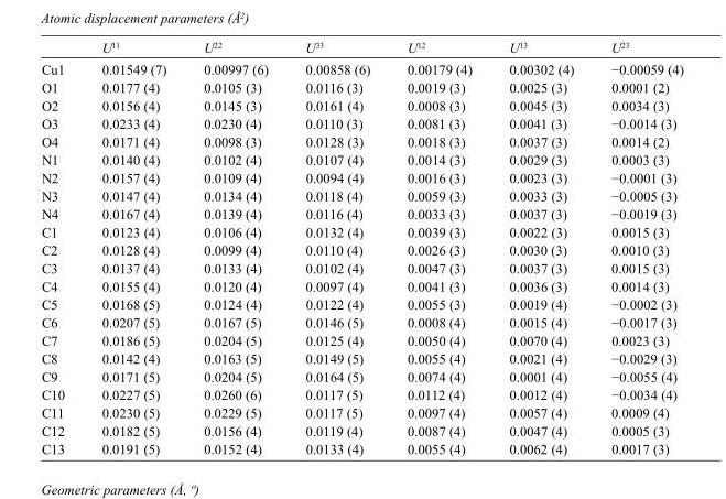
<table><thead><tr><td></td><td>U<sup>11</sup></td><td>U<sup>22</sup></td><td>U<sup>33</sup></td><td>U<sup>12</sup></td><td>U<sup>13</sup></td><td>U<sup>23</sup></td></tr></thead><tbody><tr><td>Cu1</td><td>0.01549 (7)</td><td>0.00997 (6)</td><td>0.00858 (6)</td><td>0.00179 (4)</td><td>0.00302 (4)</td><td>−0.00059 (4)</td></tr><tr><td>O1</td><td>0.0177 (4)</td><td>0.0105 (3)</td><td>0.0116 (3)</td><td>0.0019 (3)</td><td>0.0025 (3)</td><td>0.0001 (2)</td></tr><tr><td>O2</td><td>0.0156 (4)</td><td>0.0145 (3)</td><td>0.0161 (4)</td><td>0.0008 (3)</td><td>0.0045 (3)</td><td>0.0034 (3)</td></tr><tr><td>O3</td><td>0.0233 (4)</td><td>0.0230 (4)</td><td>0.0110 (3)</td><td>0.0081 (3)</td><td>0.0041 (3)</td><td>−0.0014 (3)</td></tr><tr><td>O4</td><td>0.0171 (4)</td><td>0.0098 (3)</td><td>0.0128 (3)</td><td>0.0018 (3)</td><td>0.0037 (3)</td><td>0.0014 (2)</td></tr><tr><td>N1</td><td>0.0140 (4)</td><td>0.0102 (4)</td><td>0.0107 (4)</td><td>0.0014 (3)</td><td>0.0029 (3)</td><td>0.0003 (3)</td></tr><tr><td>N2</td><td>0.0157 (4)</td><td>0.0109 (4)</td><td>0.0094 (4)</td><td>0.0016 (3)</td><td>0.0023 (3)</td><td>−0.0001 (3)</td></tr><tr><td>N3</td><td>0.0147 (4)</td><td>0.0134 (4)</td><td>0.0118 (4)</td><td>0.0059 (3)</td><td>0.0033 (3)</td><td>−0.0005 (3)</td></tr><tr><td>N4</td><td>0.0167 (4)</td><td>0.0139 (4)</td><td>0.0116 (4)</td><td>0.0033 (3)</td><td>0.0037 (3)</td><td>−0.0019 (3)</td></tr><tr><td>C1</td><td>0.0123 (4)</td><td>0.0106 (4)</td><td>0.0132 (4)</td><td>0.0039 (3)</td><td>0.0022 (3)</td><td>0.0015 (3)</td></tr><tr><td>C2</td><td>0.0128 (4)</td><td>0.0099 (4)</td><td>0.0110 (4)</td><td>0.0026 (3)</td><td>0.0030 (3)</td><td>0.0010 (3)</td></tr><tr><td>C3</td><td>0.0137 (4)</td><td>0.0133 (4)</td><td>0.0102 (4)</td><td>0.0047 (3)</td><td>0.0037 (3)</td><td>0.0015 (3)</td></tr><tr><td>C4</td><td>0.0155 (4)</td><td>0.0120 (4)</td><td>0.0097 (4)</td><td>0.0041 (3)</td><td>0.0036 (3)</td><td>0.0014 (3)</td></tr><tr><td>C5</td><td>0.0168 (5)</td><td>0.0124 (4)</td><td>0.0122 (4)</td><td>0.0055 (3)</td><td>0.0019 (4)</td><td>−0.0002 (3)</td></tr><tr><td>C6</td><td>0.0207 (5)</td><td>0.0167 (5)</td><td>0.0146 (5)</td><td>0.0008 (4)</td><td>0.0015 (4)</td><td>−0.0017 (3)</td></tr><tr><td>C7</td><td>0.0186 (5)</td><td>0.0204 (5)</td><td>0.0125 (4)</td><td>0.0050 (4)</td><td>0.0070 (4)</td><td>0.0023 (3)</td></tr><tr><td>C8</td><td>0.0142 (4)</td><td>0.0163 (5)</td><td>0.0149 (5)</td><td>0.0055 (4)</td><td>0.0021 (4)</td><td>−0.0029 (3)</td></tr><tr><td>C9</td><td>0.0171 (5)</td><td>0.0204 (5)</td><td>0.0164 (5)</td><td>0.0074 (4)</td><td>0.0001 (4)</td><td>−0.0055 (4)</td></tr><tr><td>C10</td><td>0.0227 (5)</td><td>0.0260 (6)</td><td>0.0117 (5)</td><td>0.0112 (4)</td><td>0.0012 (4)</td><td>−0.0034 (4)</td></tr><tr><td>C11</td><td>0.0230 (5)</td><td>0.0229 (5)</td><td>0.0117 (5)</td><td>0.0097 (4)</td><td>0.0057 (4)</td><td>0.0009 (4)</td></tr><tr><td>C12</td><td>0.0182 (5)</td><td>0.0156 (4)</td><td>0.0119 (4)</td><td>0.0087 (4)</td><td>0.0047 (4)</td><td>0.0005 (3)</td></tr><tr><td>C13</td><td>0.0191 (5)</td><td>0.0152 (4)</td><td>0.0133 (4)</td><td>0.0055 (4)</td><td>0.0062 (4)</td><td>0.0017 (3)</td></tr></tbody></table>